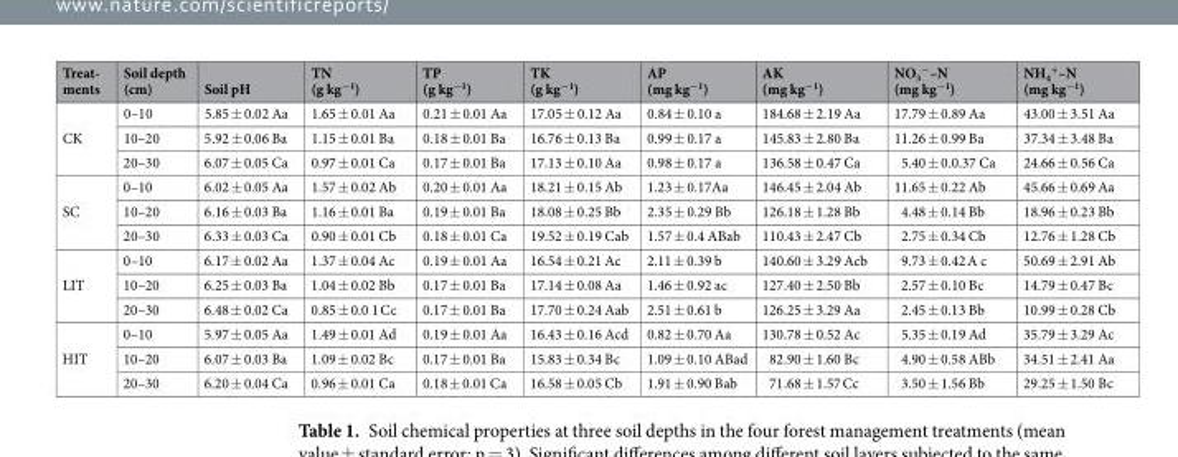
<table><thead><tr><td>Treat- ments</td><td>Soil depth (cm)</td><td>Soil pH</td><td>TN (g kg<sup>−1</sup>)</td><td>TP (g kg<sup>−1</sup>)</td><td>TK (g kg<sup>−1</sup>)</td><td>AP (mg kg<sup>−1</sup>)</td><td>AK (mg kg<sup>−1</sup>)</td><td>NO<sub>3</sub> <sup>−</sup>–N (mg kg<sup>−1</sup>)</td><td>NH<sub>4</sub> <sup>+</sup>–N (mg kg<sup>−1</sup>)</td></tr></thead><tbody><tr><td rowspan="3">CK</td><td>0–10</td><td>5.85 ± 0.02 Aa</td><td>1.65 ± 0.01 Aa</td><td>0.21 ± 0.01 Aa</td><td>17.05 ± 0.12 Aa</td><td>0.84 ± 0.10 a</td><td>184.68 ± 2.19 Aa</td><td>17.79 ± 0.89 Aa</td><td>43.00 ± 3.51 Aa</td></tr><tr><td>10–20</td><td>5.92 ± 0.06 Ba</td><td>1.15 ± 0.01 Ba</td><td>0.18 ± 0.01 Ba</td><td>16.76 ± 0.13 Ba</td><td>0.99 ± 0.17 a</td><td>145.83 ± 2.80 Ba</td><td>11.26 ± 0.99 Ba</td><td>37.34 ± 3.48 Ba</td></tr><tr><td>20–30</td><td>6.07 ± 0.05 Ca</td><td>0.97 ± 0.01 Ca</td><td>0.17 ± 0.01 Ba</td><td>17.13 ± 0.10 Aa</td><td>0.98 ± 0.17 a</td><td>136.58 ± 0.47 Ca</td><td>5.40 ± 0.0.37 Ca</td><td>24.66 ± 0.56 Ca</td></tr><tr><td rowspan="3">SC</td><td>0–10</td><td>6.02 ± 0.05 Aa</td><td>1.57 ± 0.02 Ab</td><td>0.20 ± 0.01 Aa</td><td>18.21 ± 0.15 Ab</td><td>1.23 ± 0.17Aa</td><td>146.45 ± 2.04 Ab</td><td>11.65 ± 0.22 Ab</td><td>45.66 ± 0.69 Aa</td></tr><tr><td>10–20</td><td>6.16 ± 0.03 Ba</td><td>1.16 ± 0.01 Ba</td><td>0.19 ± 0.01 Ba</td><td>18.08 ± 0.25 Bb</td><td>2.35 ± 0.29 Bb</td><td>126.18 ± 1.28 Bb</td><td>4.48 ± 0.14 Bb</td><td>18.96 ± 0.23 Bb</td></tr><tr><td>20–30</td><td>6.33 ± 0.03 Ca</td><td>0.90 ± 0.01 Cb</td><td>0.18 ± 0.01 Ca</td><td>19.52 ± 0.19 Cab</td><td>1.57 ± 0.4 ABab</td><td>110.43 ± 2.47 Cb</td><td>2.75 ± 0.34 Cb</td><td>12.76 ± 1.28 Cb</td></tr><tr><td rowspan="3">LIT</td><td>0–10</td><td>6.17 ± 0.02 Aa</td><td>1.37 ± 0.04 Ac</td><td>0.19 ± 0.01 Aa</td><td>16.54 ± 0.21 Ac</td><td>2.11 ± 0.39 b</td><td>140.60 ± 3.29 Acb</td><td>9.73 ± 0.42 A c</td><td>50.69 ± 2.91 Ab</td></tr><tr><td>10–20</td><td>6.25 ± 0.03 Ba</td><td>1.04 ± 0.02 Bb</td><td>0.17 ± 0.01 Ba</td><td>17.14 ± 0.08 Aa</td><td>1.46 ± 0.92 ac</td><td>127.40 ± 2.50 Bb</td><td>2.57 ± 0.10 Bc</td><td>14.79 ± 0.47 Bc</td></tr><tr><td>20–30</td><td>6.48 ± 0.02 Ca</td><td>0.85 ± 0.0 1 Cc</td><td>0.17 ± 0.01 Ba</td><td>17.70 ± 0.24 Aab</td><td>2.51 ± 0.61 b</td><td>126.25 ± 3.29 Aa</td><td>2.45 ± 0.13 Bb</td><td>10.99 ± 0.28 Cb</td></tr><tr><td rowspan="3">HIT</td><td>0–10</td><td>5.97 ± 0.05 Aa</td><td>1.49 ± 0.01 Ad</td><td>0.19 ± 0.01 Aa</td><td>16.43 ± 0.16 Acd</td><td>0.82 ± 0.70 Aa</td><td>130.78 ± 0.52 Ac</td><td>5.35 ± 0.19 Ad</td><td>35.79 ± 3.29 Ac</td></tr><tr><td>10–20</td><td>6.07 ± 0.03 Ba</td><td>1.09 ± 0.02 Bc</td><td>0.17 ± 0.01 Ba</td><td>15.83 ± 0.34 Bc</td><td>1.09 ± 0.10 ABad</td><td>82.90 ± 1.60 Bc</td><td>4.90 ± 0.58 ABb</td><td>34.51 ± 2.41 Aa</td></tr><tr><td>20–30</td><td>6.20 ± 0.04 Ca</td><td>0.96 ± 0.01 Ca</td><td>0.18 ± 0.01 Ca</td><td>16.58 ± 0.05 Cb</td><td>1.91 ± 0.90 Bab</td><td>71.68 ± 1.57 Cc</td><td>3.50 ± 1.56 Bb</td><td>29.25 ± 1.50 Bc</td></tr></tbody></table>